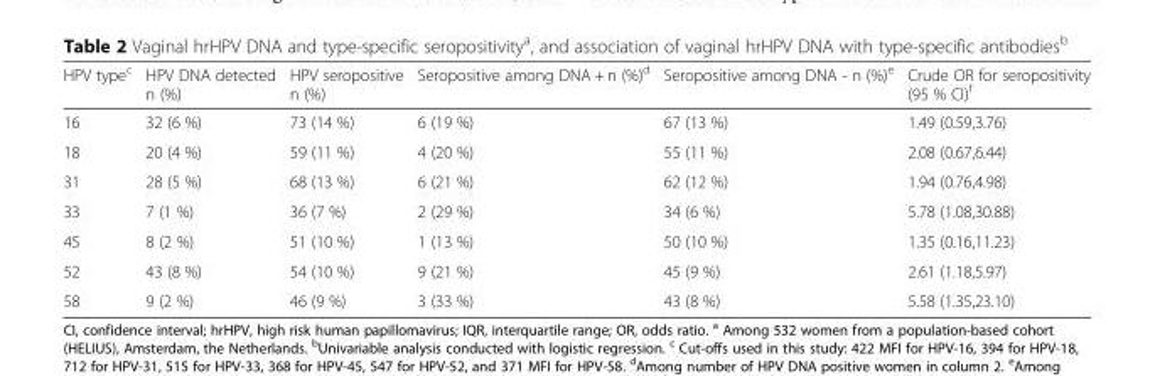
<table><thead><tr><td>HPV type<sup>c</sup></td><td>HPV DNA detected n (%)</td><td>HPV seropositive n (%)</td><td>Seropositive among DNA + n (%)<sup>d</sup></td><td>Seropositive among DNA - n (%)<sup>e</sup></td><td>Crude OR for seropositivity (95 % CI)<sup>f</sup></td></tr></thead><tbody><tr><td>16</td><td>32 (6 %)</td><td>73 (14 %)</td><td>6 (19 %)</td><td>67 (13 %)</td><td>1.49 (0.59,3.76)</td></tr><tr><td>18</td><td>20 (4 %)</td><td>59 (11 %)</td><td>4 (20 %)</td><td>55 (11 %)</td><td>2.08 (0.67,6.44)</td></tr><tr><td>31</td><td>28 (5 %)</td><td>68 (13 %)</td><td>6 (21 %)</td><td>62 (12 %)</td><td>1.94 (0.76,4.98)</td></tr><tr><td>33</td><td>7 (1 %)</td><td>36 (7 %)</td><td>2 (29 %)</td><td>34 (6 %)</td><td>5.78 (1.08,30.88)</td></tr><tr><td>45</td><td>8 (2 %)</td><td>51 (10 %)</td><td>1 (13 %)</td><td>50 (10 %)</td><td>1.35 (0.16,11.23)</td></tr><tr><td>52</td><td>43 (8 %)</td><td>54 (10 %)</td><td>9 (21 %)</td><td>45 (9 %)</td><td>2.61 (1.18,5.97)</td></tr><tr><td>58</td><td>9 (2 %)</td><td>46 (9 %)</td><td>3 (33 %)</td><td>43 (8 %)</td><td>5.58 (1.35,23.10)</td></tr></tbody></table>